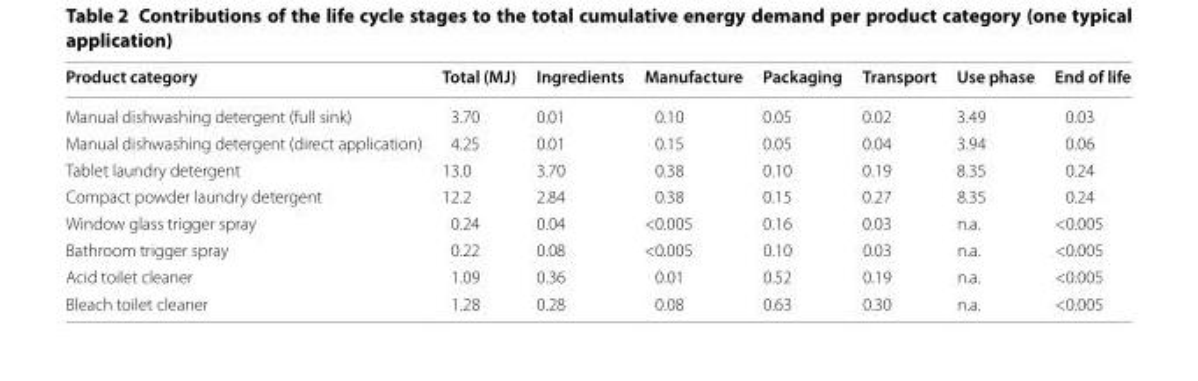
<table><thead><tr><td>Product category</td><td>Total (MJ)</td><td>Ingredients</td><td>Manufacture</td><td>Packaging</td><td>Transport</td><td>Use phase</td><td>End of life</td></tr></thead><tbody><tr><td>Manual dishwashing detergent (full sink)</td><td>3.70</td><td>0.01</td><td>0.10</td><td>0.05</td><td>0.02</td><td>3.49</td><td>0.03</td></tr><tr><td>Manual dishwashing detergent (direct application)</td><td>4.25</td><td>0.01</td><td>0.15</td><td>0.05</td><td>0.04</td><td>3.94</td><td>0.06</td></tr><tr><td>Tablet laundry detergent</td><td>13.0</td><td>3.70</td><td>0.38</td><td>0.10</td><td>0.19</td><td>8.35</td><td>0.24</td></tr><tr><td>Compact powder laundry detergent</td><td>12.2</td><td>2.84</td><td>0.38</td><td>0.15</td><td>0.27</td><td>8.35</td><td>0.24</td></tr><tr><td>Window glass trigger spray</td><td>0.24</td><td>0.04</td><td>&lt;0.005</td><td>0.16</td><td>0.03</td><td>n.a.</td><td>&lt;0.005</td></tr><tr><td>Bathroom trigger spray</td><td>0.22</td><td>0.08</td><td>&lt;0.005</td><td>0.10</td><td>0.03</td><td>n.a.</td><td>&lt;0.005</td></tr><tr><td>Acid toilet cleaner</td><td>1.09</td><td>0.36</td><td>0.01</td><td>0.52</td><td>0.19</td><td>n.a.</td><td>&lt;0.005</td></tr><tr><td>Bleach toilet cleaner</td><td>1.28</td><td>0.28</td><td>0.08</td><td>0.63</td><td>0.30</td><td>n.a.</td><td>&lt;0.005</td></tr></tbody></table>